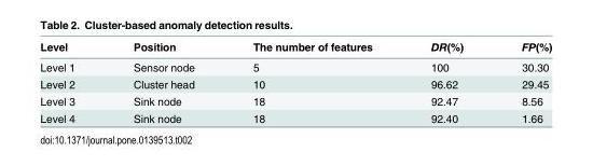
<table><thead><tr><td>Level</td><td>Position</td><td>The number of features</td><td>DR(%)</td><td>FP(%)</td></tr></thead><tbody><tr><td>Level 1</td><td>Sensor node</td><td>5</td><td>100</td><td>30.30</td></tr><tr><td>Level 2</td><td>Cluster head</td><td>10</td><td>96.62</td><td>29.45</td></tr><tr><td>Level 3</td><td>Sink node</td><td>18</td><td>92.47</td><td>8.56</td></tr><tr><td>Level 4</td><td>Sink node</td><td>18</td><td>92.40</td><td>1.66</td></tr></tbody></table>